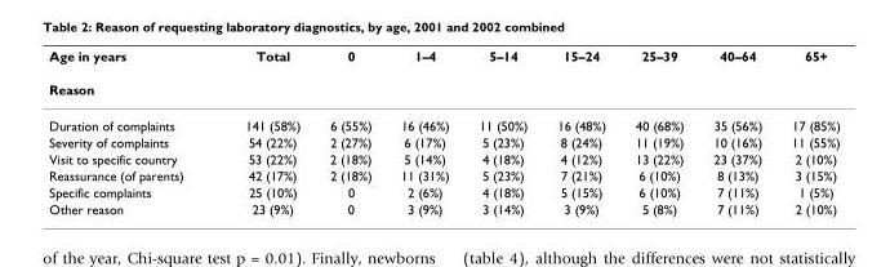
<table><thead><tr><td rowspan="2">Age in years Reason</td><td rowspan="2">Total</td><td rowspan="2">0</td><td rowspan="2">1–4</td><td rowspan="2">5–14</td><td rowspan="2">15–24</td><td rowspan="2">25–39</td><td rowspan="2">40–64</td><td rowspan="2">65+</td></tr><tr></tr></thead><tbody><tr><td>Duration of complaints</td><td>141 (58%)</td><td>6 (55%)</td><td>16 (46%)</td><td>11 (50%)</td><td>16 (48%)</td><td>40 (68%)</td><td>35 (56%)</td><td>17 (85%)</td></tr><tr><td>Severity of complaints</td><td>54 (22%)</td><td>2 (27%)</td><td>6 (17%)</td><td>5 (23%)</td><td>8 (24%)</td><td>11 (19%)</td><td>10 (16%)</td><td>11 (55%)</td></tr><tr><td>Visit to specific country</td><td>53 (22%)</td><td>2 (18%)</td><td>5 (14%)</td><td>4 (18%)</td><td>4 (12%)</td><td>13 (22%)</td><td>23 (37%)</td><td>2 (10%)</td></tr><tr><td>Reassurance (of parents)</td><td>42 (17%)</td><td>2 (18%)</td><td>11 (31%)</td><td>5 (23%)</td><td>7 (21%)</td><td>6 (10%)</td><td>8 (13%)</td><td>3 (15%)</td></tr><tr><td>Specific complaints</td><td>25 (10%)</td><td>0</td><td>2 (6%)</td><td>4 (18%)</td><td>5 (15%)</td><td>6 (10%)</td><td>7 (11%)</td><td>1 (5%)</td></tr><tr><td>Other reason</td><td>23 (9%)</td><td>0</td><td>3 (9%)</td><td>3 (14%)</td><td>3 (9%)</td><td>5 (8%)</td><td>7 (11%)</td><td>2 (10%)</td></tr></tbody></table>